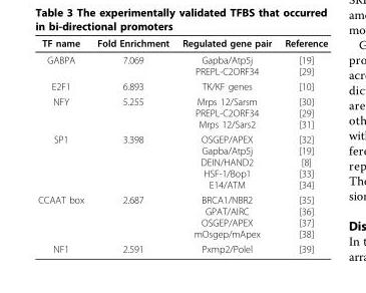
<table><thead><tr><td>TF name</td><td>Fold Enrichment</td><td>Regulated gene pair</td><td>Reference</td></tr></thead><tbody><tr><td>GABPA</td><td>7.069</td><td>Gapba/Atp5j PREPL-C2ORF34</td><td>[19] [29]</td></tr><tr><td>E2F1</td><td>6.893</td><td>TK/KF genes</td><td>[10]</td></tr><tr><td>NFY</td><td>5.255</td><td>Mrps 12/Sarsm PREPL-C2ORF34 Mrps 12/Sars2</td><td>[30] [29] [31]</td></tr><tr><td>SP1</td><td>3.398</td><td>OSGEP/APEX Gapba/Atp5j DEIN/HAND2 HSF-1/Bop1 E14/ATM</td><td>[32] [19] [8] [33] [34]</td></tr><tr><td>CCAAT box</td><td>2.687</td><td>BRCA1/NBR2 GPAT/AIRC OSGEP/APEX mOsgep/mApex</td><td>[35] [36] [37] [38]</td></tr><tr><td>NF1</td><td>2.591</td><td>Pxmp2/Polel</td><td>[39]</td></tr></tbody></table>